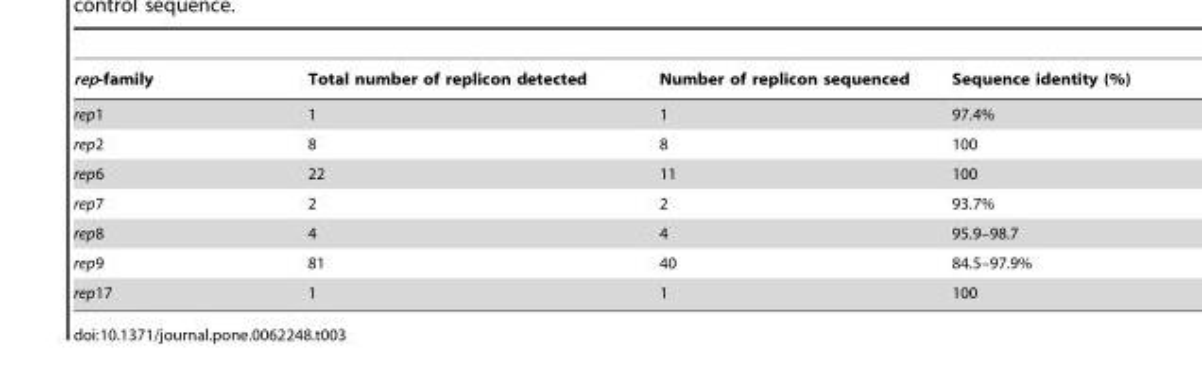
<table><thead><tr><td>rep-family</td><td>Total number of replicon detected</td><td>Number of replicon sequenced</td><td>Sequence identity (%)</td></tr></thead><tbody><tr><td>rep1</td><td>1</td><td>1</td><td>97.4%</td></tr><tr><td>rep2</td><td>8</td><td>8</td><td>100</td></tr><tr><td>rep6</td><td>22</td><td>11</td><td>100</td></tr><tr><td>rep7</td><td>2</td><td>2</td><td>93.7%</td></tr><tr><td>rep8</td><td>4</td><td>4</td><td>95.9–98.7</td></tr><tr><td>rep9</td><td>81</td><td>40</td><td>84.5–97.9%</td></tr><tr><td>rep17</td><td>1</td><td>1</td><td>100</td></tr></tbody></table>